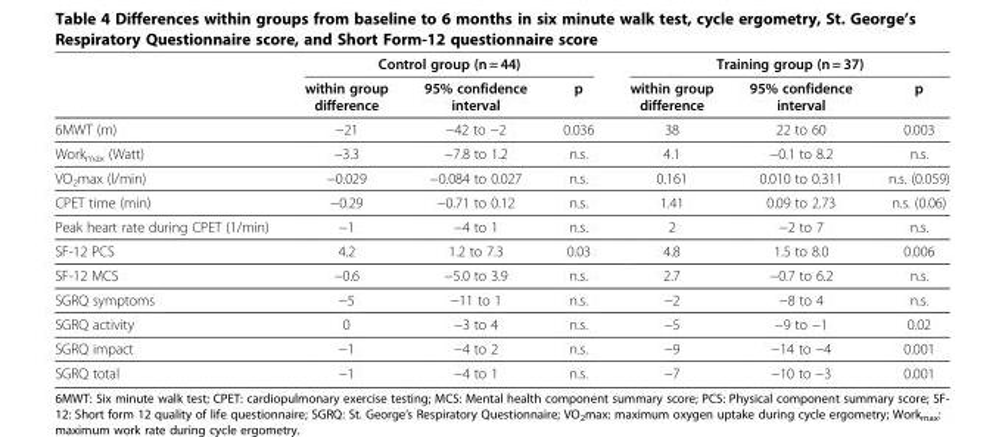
<table><thead><tr><td rowspan="2"></td><td colspan="3">Control group (n = 44)</td><td colspan="3">Training group (n = 37)</td></tr><tr><td>within group difference</td><td>95% confidence interval</td><td>p</td><td>within group difference</td><td>95% confidence interval</td><td>p</td></tr></thead><tbody><tr><td>6MWT (m)</td><td>−21</td><td>−42 to −2</td><td>0.036</td><td>38</td><td>22 to 60</td><td>0.003</td></tr><tr><td>Work<sub>max</sub> (Watt)</td><td>−3.3</td><td>−7.8 to 1.2</td><td>n.s.</td><td>4.1</td><td>−0.1 to 8.2</td><td>n.s.</td></tr><tr><td>VO<sub>2</sub>max (l/min)</td><td>−0.029</td><td>−0.084 to 0.027</td><td>n.s.</td><td>0.161</td><td>0.010 to 0.311</td><td>n.s. (0.059)</td></tr><tr><td>CPET time (min)</td><td>−0.29</td><td>−0.71 to 0.12</td><td>n.s.</td><td>1.41</td><td>0.09 to 2.73</td><td>n.s. (0.06)</td></tr><tr><td>Peak heart rate during CPET (1/min)</td><td>−1</td><td>−4 to 1</td><td>n.s.</td><td>2</td><td>−2 to 7</td><td>n.s.</td></tr><tr><td>SF-12 PCS</td><td>4.2</td><td>1.2 to 7.3</td><td>0.03</td><td>4.8</td><td>1.5 to 8.0</td><td>0.006</td></tr><tr><td>SF-12 MCS</td><td>−0.6</td><td>−5.0 to 3.9</td><td>n.s.</td><td>2.7</td><td>−0.7 to 6.2</td><td>n.s.</td></tr><tr><td>SGRQ symptoms</td><td>−5</td><td>−11 to 1</td><td>n.s.</td><td>−2</td><td>−8 to 4</td><td>n.s.</td></tr><tr><td>SGRQ activity</td><td>0</td><td>−3 to 4</td><td>n.s.</td><td>−5</td><td>−9 to −1</td><td>0.02</td></tr><tr><td>SGRQ impact</td><td>−1</td><td>−4 to 2</td><td>n.s.</td><td>−9</td><td>−14 to −4</td><td>0.001</td></tr><tr><td>SGRQ total</td><td>−1</td><td>−4 to 1</td><td>n.s.</td><td>−7</td><td>−10 to −3</td><td>0.001</td></tr></tbody></table>